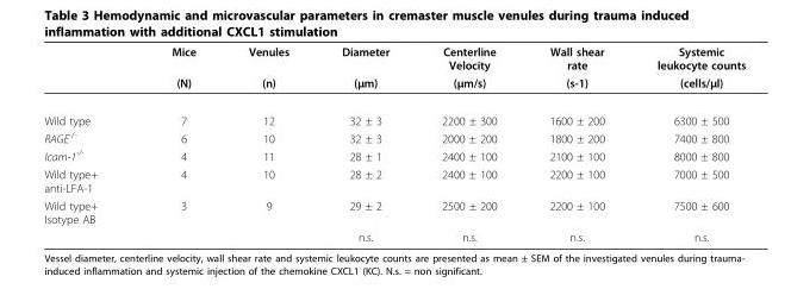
<table><thead><tr><td rowspan="2"></td><td rowspan="2">Mice (N)</td><td rowspan="2">Venules (n)</td><td rowspan="2">Diameter (μm)</td><td rowspan="2">Centerline Velocity (μm/s)</td><td rowspan="2">Wall shear rate (s-1)</td><td rowspan="2">Systemic leukocyte counts (cells/μl)</td></tr><tr></tr></thead><tbody><tr><td>Wild type</td><td>7</td><td>12</td><td>32 ± 3</td><td>2200 ± 300</td><td>1600 ± 200</td><td>6300 ± 500</td></tr><tr><td>RAGE<sup>-/-</sup></td><td>6</td><td>10</td><td>32 ± 3</td><td>2000 ± 200</td><td>1800 ± 200</td><td>7400 ± 800</td></tr><tr><td>Icam-1<sup>-/-</sup></td><td>4</td><td>11</td><td>28 ± 1</td><td>2400 ± 100</td><td>2100 ± 100</td><td>8000 ± 800</td></tr><tr><td>Wild type+ anti-LFA-1</td><td>4</td><td>10</td><td>28 ± 2</td><td>2400 ± 100</td><td>2200 ± 100</td><td>7000 ± 500</td></tr><tr><td rowspan="2">Wild type+ Isotype AB</td><td>3</td><td>9</td><td>29 ± 2</td><td>2500 ± 200</td><td>2200 ± 100</td><td>7500 ± 600</td></tr><tr><td></td><td></td><td>n.s.</td><td>n.s.</td><td>n.s.</td><td>n.s.</td></tr></tbody></table>